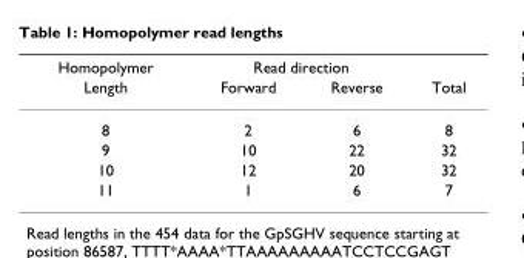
<table><thead><tr><td rowspan="2">Homopolymer Length</td><td colspan="2">Read direction</td><td rowspan="2">Total</td></tr><tr><td>Forward</td><td>Reverse</td></tr></thead><tbody><tr><td>8</td><td>2</td><td>6</td><td>8</td></tr><tr><td>9</td><td>10</td><td>22</td><td>32</td></tr><tr><td>10</td><td>12</td><td>20</td><td>32</td></tr><tr><td>11</td><td>1</td><td>6</td><td>7</td></tr></tbody></table>